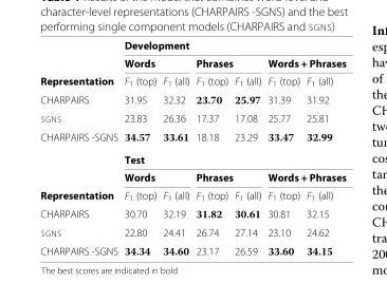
<table><thead><tr><td rowspan="3">Representation</td><td colspan="6">Development</td></tr><tr><td colspan="2">Words</td><td colspan="2">Phrases</td><td colspan="2">Words + Phrases</td></tr><tr><td>F<sub>1</sub> (top)</td><td>F<sub>1</sub> (all)</td><td>F<sub>1</sub> (top)</td><td>F<sub>1</sub> (all)</td><td>F<sub>1</sub> (top)</td><td>F<sub>1</sub> (all)</td></tr></thead><tbody><tr><td>CHARPAIRS</td><td>31.95</td><td>32.32</td><td>23.70</td><td>25.97</td><td>31.39</td><td>31.92</td></tr><tr><td>SGNS</td><td>23.83</td><td>26.36</td><td>17.37</td><td>17.08</td><td>25.77</td><td>25.81</td></tr><tr><td rowspan="3">CHARPAIRS -SGNS</td><td>34.57</td><td>33.61</td><td>18.18</td><td>23.29</td><td>33.47</td><td>32.99</td></tr><tr><td colspan="6">Test</td></tr><tr><td colspan="2">Words</td><td colspan="2">Phrases</td><td colspan="2">Words + Phrases</td></tr><tr><td>Representation</td><td>F<sub>1</sub> (top)</td><td>F<sub>1</sub> (all)</td><td>F<sub>1</sub> (top)</td><td>F<sub>1</sub> (all)</td><td>F<sub>1</sub> (top)</td><td>F<sub>1</sub> (all)</td></tr><tr><td>CHARPAIRS</td><td>30.70</td><td>32.19</td><td>31.82</td><td>30.61</td><td>30.81</td><td>32.15</td></tr><tr><td>SGNS</td><td>22.80</td><td>24.41</td><td>26.74</td><td>27.14</td><td>23.10</td><td>24.62</td></tr><tr><td>CHARPAIRS -SGNS</td><td>34.34</td><td>34.60</td><td>23.17</td><td>26.59</td><td>33.60</td><td>34.15</td></tr></tbody></table>